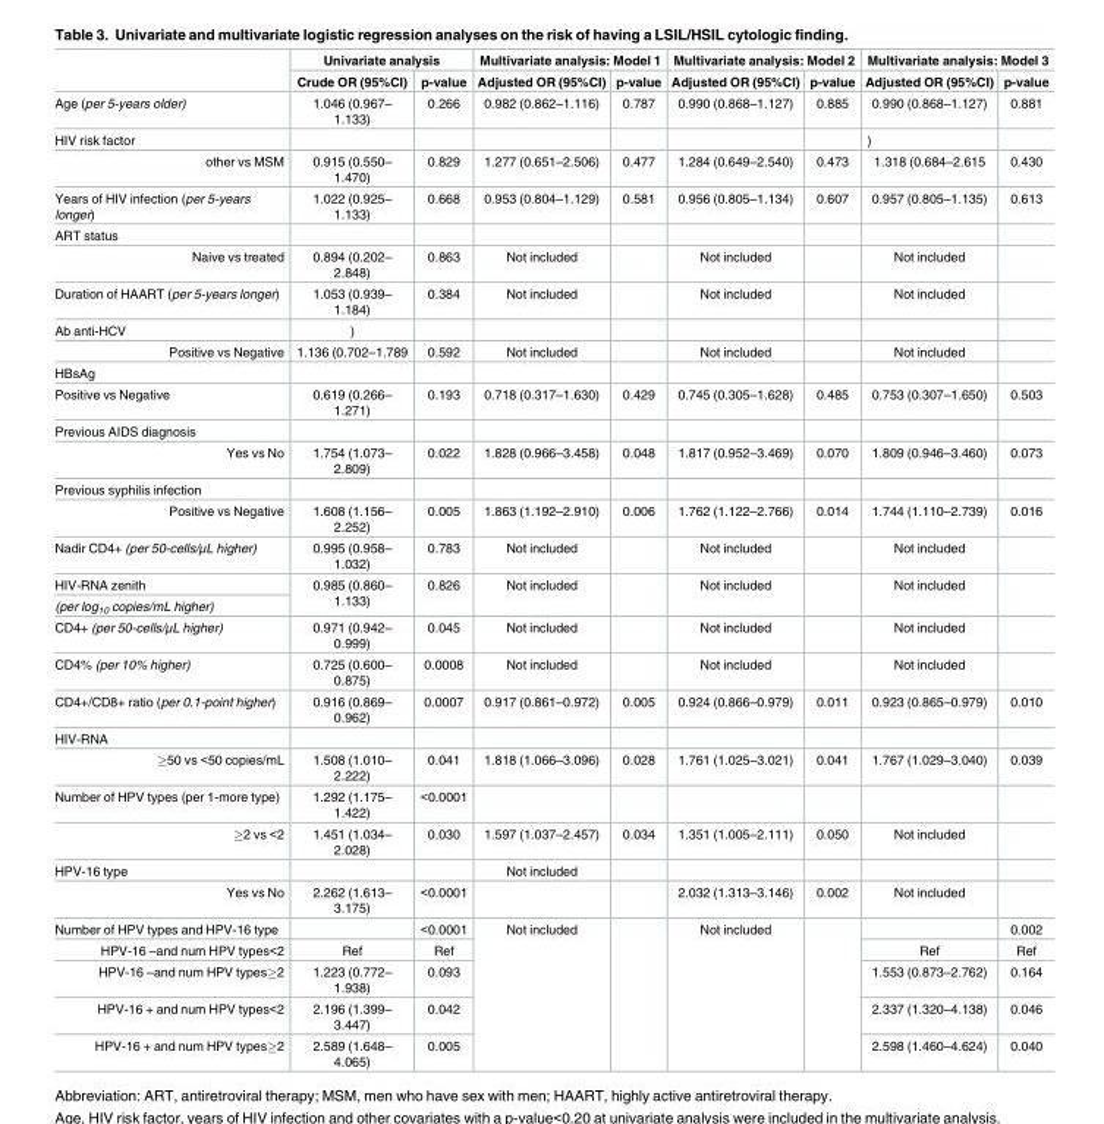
<table><thead><tr><td rowspan="2"></td><td colspan="2">Univariate analysis</td><td colspan="2">Multivariate analysis: Model 1</td><td colspan="2">Multivariate analysis: Model 2</td><td colspan="2">Multivariate analysis: Model 3</td></tr><tr><td>Crude OR (95%CI)</td><td>p-value</td><td>Adjusted OR (95%CI)</td><td>p-value</td><td>Adjusted OR (95%CI)</td><td>p-value</td><td>Adjusted OR (95%CI)</td><td>p-value</td></tr></thead><tbody><tr><td>Age (per 5-years older)</td><td>1.046 (0.967– 1.133)</td><td>0.266</td><td>0.982 (0.862–1.116)</td><td>0.787</td><td>0.990 (0.868–1.127)</td><td>0.885</td><td>0.990 (0.868–1.127)</td><td>0.881</td></tr><tr><td>HIV risk factor</td><td></td><td></td><td></td><td></td><td></td><td></td><td>)</td><td></td></tr><tr><td>other vs MSM</td><td>0.915 (0.550– 1.470)</td><td>0.829</td><td>1.277 (0.651–2.506)</td><td>0.477</td><td>1.284 (0.649–2.540)</td><td>0.473</td><td>1.318 (0.684–2.615</td><td>0.430</td></tr><tr><td>Years of HIV infection (per 5-years longer)</td><td>1.022 (0.925– 1.133)</td><td>0.668</td><td>0.953 (0.804–1.129)</td><td>0.581</td><td>0.956 (0.805–1.134)</td><td>0.607</td><td>0.957 (0.805–1.135)</td><td>0.613</td></tr><tr><td colspan="9">ART status</td></tr><tr><td>Naive vs treated</td><td>0.894 (0.202– 2.848)</td><td>0.863</td><td>Not included</td><td></td><td>Not included</td><td></td><td>Not included</td><td></td></tr><tr><td>Duration of HAART (per 5-years longer)</td><td>1.053 (0.939– 1.184)</td><td>0.384</td><td>Not included</td><td></td><td>Not included</td><td></td><td>Not included</td><td></td></tr><tr><td>Ab anti-HCV</td><td>)</td><td></td><td></td><td></td><td></td><td></td><td></td><td></td></tr><tr><td>Positive vs Negative</td><td>1.136 (0.702–1.789</td><td>0.592</td><td>Not included</td><td></td><td>Not included</td><td></td><td>Not included</td><td></td></tr><tr><td colspan="9">HBsAg</td></tr><tr><td>Positive vs Negative</td><td>0.619 (0.266– 1.271)</td><td>0.193</td><td>0.718 (0.317–1.630)</td><td>0.429</td><td>0.745 (0.305–1.628)</td><td>0.485</td><td>0.753 (0.307–1.650)</td><td>0.503</td></tr><tr><td colspan="9">Previous AIDS diagnosis</td></tr><tr><td>Yes vs No</td><td>1.754 (1.073– 2.809)</td><td>0.022</td><td>1.828 (0.966–3.458)</td><td>0.048</td><td>1.817 (0.952–3.469)</td><td>0.070</td><td>1.809 (0.946–3.460)</td><td>0.073</td></tr><tr><td colspan="9">Previous syphilis infection</td></tr><tr><td>Positive vs Negative</td><td>1.608 (1.156– 2.252)</td><td>0.005</td><td>1.863 (1.192–2.910)</td><td>0.006</td><td>1.762 (1.122–2.766)</td><td>0.014</td><td>1.744 (1.110–2.739)</td><td>0.016</td></tr><tr><td>Nadir CD4+ (per 50-cells/μL higher)</td><td>0.995 (0.958– 1.032)</td><td>0.783</td><td>Not included</td><td></td><td>Not included</td><td></td><td>Not included</td><td></td></tr><tr><td>HIV-RNA zenith</td><td rowspan="2">0.985 (0.860– 1.133)</td><td rowspan="2">0.826</td><td rowspan="2">Not included</td><td rowspan="2"></td><td rowspan="2">Not included</td><td rowspan="2"></td><td rowspan="2">Not included</td><td rowspan="2"></td></tr><tr><td>(per log<sub>10</sub> copies/mL higher)</td></tr><tr><td>CD4+ (per 50-cells/μL higher)</td><td>0.971 (0.942– 0.999)</td><td>0.045</td><td>Not included</td><td></td><td>Not included</td><td></td><td>Not included</td><td></td></tr><tr><td>CD4% (per 10% higher)</td><td>0.725 (0.600– 0.875)</td><td>0.0008</td><td>Not included</td><td></td><td>Not included</td><td></td><td>Not included</td><td></td></tr><tr><td>CD4+/CD8+ ratio (per 0.1-point higher)</td><td>0.916 (0.869– 0.962)</td><td>0.0007</td><td>0.917 (0.861–0.972)</td><td>0.005</td><td>0.924 (0.866–0.979)</td><td>0.011</td><td>0.923 (0.865–0.979)</td><td>0.010</td></tr><tr><td colspan="9">HIV-RNA</td></tr><tr><td>≥50 vs &lt;50 copies/mL</td><td>1.508 (1.010– 2.222)</td><td>0.041</td><td>1.818 (1.066–3.096)</td><td>0.028</td><td>1.761 (1.025–3.021)</td><td>0.041</td><td>1.767 (1.029–3.040)</td><td>0.039</td></tr><tr><td>Number of HPV types (per 1-more type)</td><td>1.292 (1.175– 1.422)</td><td>&lt;0.0001</td><td></td><td></td><td></td><td></td><td></td><td></td></tr><tr><td>≥2 vs &lt;2</td><td>1.451 (1.034– 2.028)</td><td>0.030</td><td>1.597 (1.037–2.457)</td><td>0.034</td><td>1.351 (1.005–2.111)</td><td>0.050</td><td>Not included</td><td></td></tr><tr><td>HPV-16 type</td><td></td><td></td><td>Not included</td><td></td><td></td><td></td><td></td><td></td></tr><tr><td>Yes vs No</td><td>2.262 (1.613– 3.175)</td><td>&lt;0.0001</td><td></td><td></td><td>2.032 (1.313–3.146)</td><td>0.002</td><td>Not included</td><td></td></tr><tr><td>Number of HPV types and HPV-16 type</td><td></td><td>&lt;0.0001</td><td rowspan="5">Not included</td><td rowspan="5"></td><td rowspan="5">Not included</td><td rowspan="5"></td><td></td><td>0.002</td></tr><tr><td>HPV-16 –and num HPV types&lt;2</td><td>Ref</td><td>Ref</td><td>Ref</td><td>Ref</td></tr><tr><td>HPV-16 –and num HPV types≥2</td><td>1.223 (0.772– 1.938)</td><td>0.093</td><td>1.553 (0.873–2.762)</td><td>0.164</td></tr><tr><td>HPV-16 + and num HPV types&lt;2</td><td>2.196 (1.399– 3.447)</td><td>0.042</td><td>2.337 (1.320–4.138)</td><td>0.046</td></tr><tr><td>HPV-16 + and num HPV types≥2</td><td>2.589 (1.648– 4.065)</td><td>0.005</td><td>2.598 (1.460–4.624)</td><td>0.040</td></tr></tbody></table>